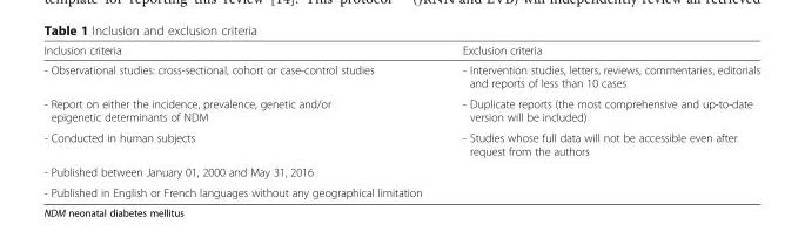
<table><thead><tr><td>Inclusion criteria</td><td>Exclusion criteria</td></tr></thead><tbody><tr><td>- Observational studies: cross-sectional, cohort or case-control studies</td><td>- Intervention studies, letters, reviews, commentaries, editorials and reports of less than 10 cases</td></tr><tr><td>- Report on either the incidence, prevalence, genetic and/or epigenetic determinants of NDM</td><td>- Duplicate reports (the most comprehensive and up-to-date version will be included)</td></tr><tr><td>- Conducted in human subjects</td><td>- Studies whose full data will not be accessible even after request from the authors</td></tr><tr><td colspan="2">- Published between January 01, 2000 and May 31, 2016</td></tr><tr><td>- Published in English or French languages without any geographical limitation</td><td></td></tr></tbody></table>